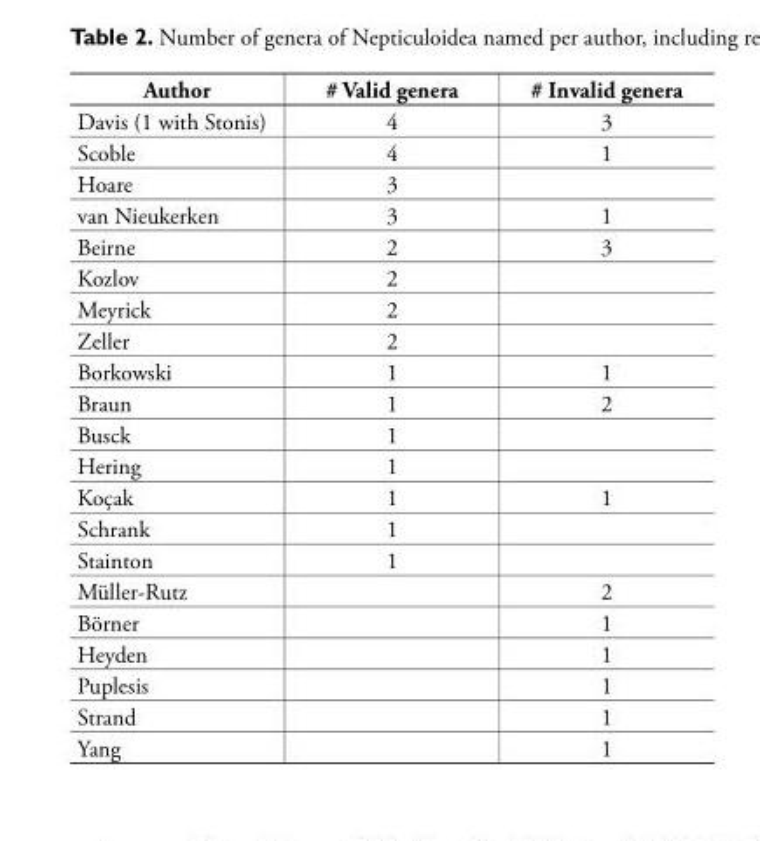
<table><thead><tr><td>Author</td><td># Valid genera</td><td># Invalid genera</td></tr></thead><tbody><tr><td>Davis (1 with Stonis)</td><td>4</td><td>3</td></tr><tr><td>Scoble</td><td>4</td><td>1</td></tr><tr><td>Hoare</td><td>3</td><td></td></tr><tr><td>van Nieukerken</td><td>3</td><td>1</td></tr><tr><td>Beirne</td><td>2</td><td>3</td></tr><tr><td>Kozlov</td><td>2</td><td></td></tr><tr><td>Meyrick</td><td>2</td><td></td></tr><tr><td>Zeller</td><td>2</td><td></td></tr><tr><td>Borkowski</td><td>1</td><td>1</td></tr><tr><td>Braun</td><td>1</td><td>2</td></tr><tr><td>Busck</td><td>1</td><td></td></tr><tr><td>Hering</td><td>1</td><td></td></tr><tr><td>Koçak</td><td>1</td><td>1</td></tr><tr><td>Schrank</td><td>1</td><td></td></tr><tr><td>Stainton</td><td>1</td><td></td></tr><tr><td>Müller-Rutz</td><td></td><td>2</td></tr><tr><td>Börner</td><td></td><td>1</td></tr><tr><td>Heyden</td><td></td><td>1</td></tr><tr><td>Puplesis</td><td></td><td>1</td></tr><tr><td>Strand</td><td></td><td>1</td></tr><tr><td>Yang</td><td></td><td>1</td></tr></tbody></table>